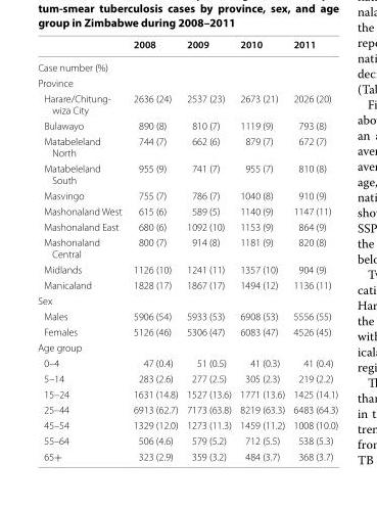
<table><thead><tr><td></td><td>2008</td><td>2009</td><td>2010</td><td>2011</td></tr></thead><tbody><tr><td colspan="5">Case number (%)</td></tr><tr><td colspan="5">Province</td></tr><tr><td>Harare/Chitung- wiza City</td><td>2636 (24)</td><td>2537 (23)</td><td>2673 (21)</td><td>2026 (20)</td></tr><tr><td>Bulawayo</td><td>890 (8)</td><td>810 (7)</td><td>1119 (9)</td><td>793 (8)</td></tr><tr><td>Matabeleland North</td><td>744 (7)</td><td>662 (6)</td><td>879 (7)</td><td>672 (7)</td></tr><tr><td>Matabeleland South</td><td>955 (9)</td><td>741 (7)</td><td>955 (7)</td><td>810 (8)</td></tr><tr><td>Masvingo</td><td>755 (7)</td><td>786 (7)</td><td>1040 (8)</td><td>910 (9)</td></tr><tr><td>Mashonaland West</td><td>615 (6)</td><td>589 (5)</td><td>1140 (9)</td><td>1147 (11)</td></tr><tr><td>Mashonaland East</td><td>680 (6)</td><td>1092 (10)</td><td>1153 (9)</td><td>864 (9)</td></tr><tr><td>Mashonaland Central</td><td>800 (7)</td><td>914 (8)</td><td>1181 (9)</td><td>820 (8)</td></tr><tr><td>Midlands</td><td>1126 (10)</td><td>1241 (11)</td><td>1357 (10)</td><td>904 (9)</td></tr><tr><td>Manicaland</td><td>1828 (17)</td><td>1867 (17)</td><td>1494 (12)</td><td>1136 (11)</td></tr><tr><td colspan="5">Sex</td></tr><tr><td>Males</td><td>5906 (54)</td><td>5933 (53)</td><td>6908 (53)</td><td>5556 (55)</td></tr><tr><td>Females</td><td>5126 (46)</td><td>5306 (47)</td><td>6083 (47)</td><td>4526 (45)</td></tr><tr><td colspan="5">Age group</td></tr><tr><td>0–4</td><td>47 (0.4)</td><td>51 (0.5)</td><td>41 (0.3)</td><td>41 (0.4)</td></tr><tr><td>5–14</td><td>283 (2.6)</td><td>277 (2.5)</td><td>305 (2.3)</td><td>219 (2.2)</td></tr><tr><td>15–24</td><td>1631 (14.8)</td><td>1527 (13.6)</td><td>1771 (13.6)</td><td>1425 (14.1)</td></tr><tr><td>25–44</td><td>6913 (62.7)</td><td>7173 (63.8)</td><td>8219 (63.3)</td><td>6483 (64.3)</td></tr><tr><td>45–54</td><td>1329 (12.0)</td><td>1273 (11.3)</td><td>1459 (11.2)</td><td>1008 (10.0)</td></tr><tr><td>55–64</td><td>506 (4.6)</td><td>579 (5.2)</td><td>712 (5.5)</td><td>538 (5.3)</td></tr><tr><td>65+</td><td>323 (2.9)</td><td>359 (3.2)</td><td>484 (3.7)</td><td>368 (3.7)</td></tr></tbody></table>